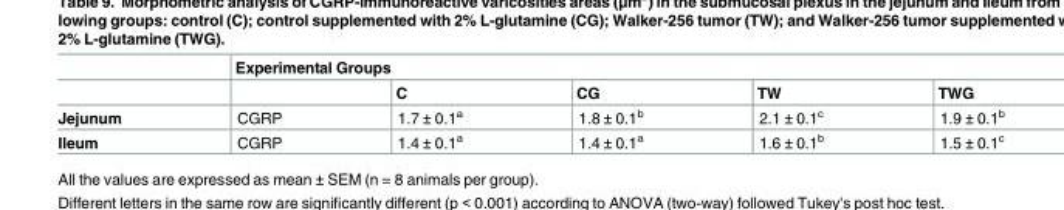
<table><thead><tr><td rowspan="2"></td><td colspan="5">Experimental Groups</td></tr><tr><td></td><td>C</td><td>CG</td><td>TW</td><td>TWG</td></tr></thead><tbody><tr><td>Jejunum</td><td>CGRP</td><td>1.7 ± 0.1<sup>a</sup></td><td>1.8 ± 0.1<sup>b</sup></td><td>2.1 ± 0.1<sup>c</sup></td><td>1.9 ± 0.1<sup>b</sup></td></tr><tr><td>Ileum</td><td>CGRP</td><td>1.4 ± 0.1<sup>a</sup></td><td>1.4 ± 0.1<sup>a</sup></td><td>1.6 ± 0.1<sup>b</sup></td><td>1.5 ± 0.1<sup>c</sup></td></tr></tbody></table>